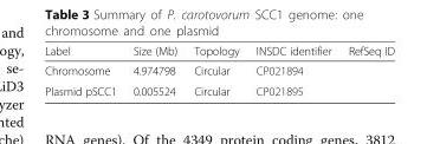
<table><thead><tr><td>Label</td><td>Size (Mb)</td><td>Topology</td><td>INSDC identifier</td><td>RefSeq ID</td></tr></thead><tbody><tr><td>Chromosome</td><td>4.974798</td><td>Circular</td><td>CP021894</td><td></td></tr><tr><td>Plasmid pSCC1</td><td>0.005524</td><td>Circular</td><td>CP021895</td><td></td></tr></tbody></table>